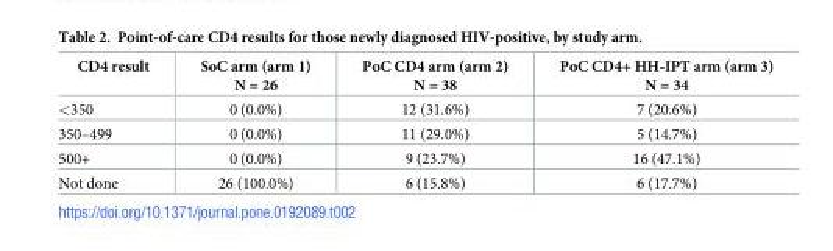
<table><thead><tr><td>CD4 result</td><td>SoC arm (arm 1) N = 26</td><td>PoC CD4 arm (arm 2) N = 38</td><td>PoC CD4+ HH-IPT arm (arm 3) N = 34</td></tr></thead><tbody><tr><td>&lt;350</td><td>0 (0.0%)</td><td>12 (31.6%)</td><td>7 (20.6%)</td></tr><tr><td>350–499</td><td>0 (0.0%)</td><td>11 (29.0%)</td><td>5 (14.7%)</td></tr><tr><td>500+</td><td>0 (0.0%)</td><td>9 (23.7%)</td><td>16 (47.1%)</td></tr><tr><td>Not done</td><td>26 (100.0%)</td><td>6 (15.8%)</td><td>6 (17.7%)</td></tr></tbody></table>